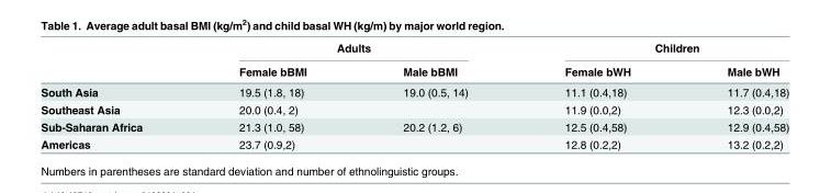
<table><thead><tr><td rowspan="2"></td><td colspan="2">Adults</td><td colspan="2">Children</td></tr><tr><td>Female bBMI</td><td>Male bBMI</td><td>Female bWH</td><td>Male bWH</td></tr></thead><tbody><tr><td>South Asia</td><td>19.5 (1.8, 18)</td><td>19.0 (0.5, 14)</td><td>11.1 (0.4,18)</td><td>11.7 (0.4,18)</td></tr><tr><td>Southeast Asia</td><td>20.0 (0.4, 2)</td><td></td><td>11.9 (0.0,2)</td><td>12.3 (0.0,2)</td></tr><tr><td>Sub-Saharan Africa</td><td>21.3 (1.0, 58)</td><td>20.2 (1.2, 6)</td><td>12.5 (0.4,58)</td><td>12.9 (0.4,58)</td></tr><tr><td>Americas</td><td>23.7 (0.9,2)</td><td></td><td>12.8 (0.2,2)</td><td>13.2 (0.2,2)</td></tr></tbody></table>